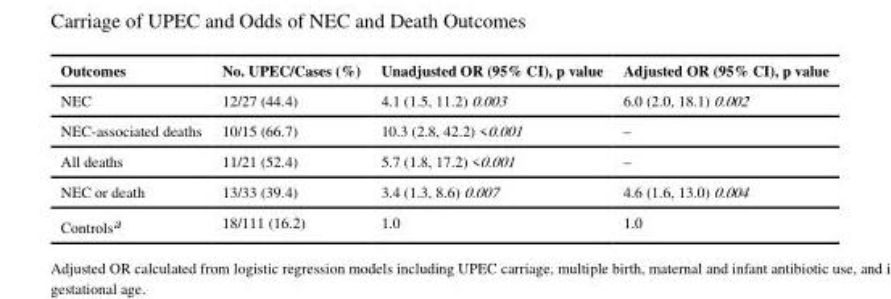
<table><thead><tr><td>Outcomes</td><td>No. UPEC/Cases (%)</td><td>Unadjusted OR (95% CI), p value</td><td>Adjusted OR (95% CI), p value</td></tr></thead><tbody><tr><td>NEC</td><td>12/27 (44.4)</td><td>4.1 (1.5, 11.2) 0.003</td><td>6.0 (2.0, 18.1) 0.002</td></tr><tr><td>NEC-associated deaths</td><td>10/15 (66.7)</td><td>10.3 (2.8, 42.2) &lt;0.001</td><td>–</td></tr><tr><td>All deaths</td><td>11/21 (52.4)</td><td>5.7 (1.8, 17.2) &lt;0.001</td><td>–</td></tr><tr><td>NEC or death</td><td>13/33 (39.4)</td><td>3.4 (1.3, 8.6) 0.007</td><td>4.6 (1.6, 13.0) 0.004</td></tr><tr><td>Controls<sup>a</sup></td><td>18/111 (16.2)</td><td>1.0</td><td>1.0</td></tr></tbody></table>